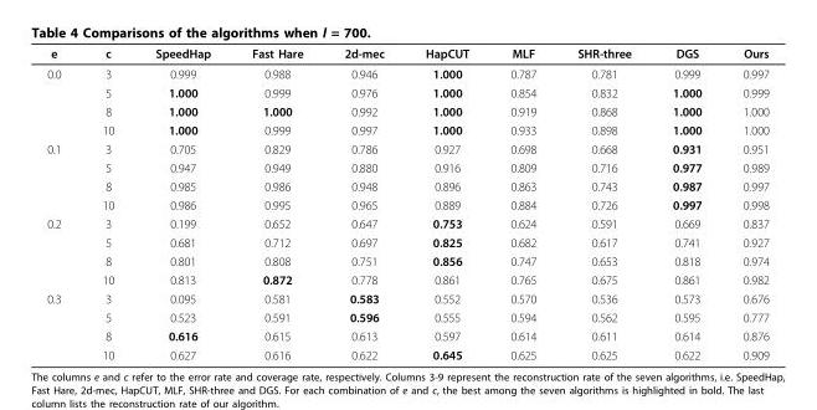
<table><thead><tr><td>e</td><td>c</td><td>SpeedHap</td><td>Fast Hare</td><td>2d-mec</td><td>HapCUT</td><td>MLF</td><td>SHR-three</td><td>DGS</td><td>Ours</td></tr></thead><tbody><tr><td rowspan="4">0.0</td><td>3</td><td>0.999</td><td>0.988</td><td>0.946</td><td>1.000</td><td>0.787</td><td>0.781</td><td>0.999</td><td>0.997</td></tr><tr><td>5</td><td>1.000</td><td>0.999</td><td>0.976</td><td>1.000</td><td>0.854</td><td>0.832</td><td>1.000</td><td>0.999</td></tr><tr><td>8</td><td>1.000</td><td>1.000</td><td>0.992</td><td>1.000</td><td>0.919</td><td>0.868</td><td>1.000</td><td>1.000</td></tr><tr><td>10</td><td>1.000</td><td>0.999</td><td>0.997</td><td>1.000</td><td>0.933</td><td>0.898</td><td>1.000</td><td>1.000</td></tr><tr><td rowspan="4">0.1</td><td>3</td><td>0.705</td><td>0.829</td><td>0.786</td><td>0.927</td><td>0.698</td><td>0.668</td><td>0.931</td><td>0.951</td></tr><tr><td>5</td><td>0.947</td><td>0.949</td><td>0.880</td><td>0.916</td><td>0.809</td><td>0.716</td><td>0.977</td><td>0.989</td></tr><tr><td>8</td><td>0.985</td><td>0.986</td><td>0.948</td><td>0.896</td><td>0.863</td><td>0.743</td><td>0.987</td><td>0.997</td></tr><tr><td>10</td><td>0.986</td><td>0.995</td><td>0.965</td><td>0.889</td><td>0.884</td><td>0.726</td><td>0.997</td><td>0.998</td></tr><tr><td rowspan="4">0.2</td><td>3</td><td>0.199</td><td>0.652</td><td>0.647</td><td>0.753</td><td>0.624</td><td>0.591</td><td>0.669</td><td>0.837</td></tr><tr><td>5</td><td>0.681</td><td>0.712</td><td>0.697</td><td>0.825</td><td>0.682</td><td>0.617</td><td>0.741</td><td>0.927</td></tr><tr><td>8</td><td>0.801</td><td>0.808</td><td>0.751</td><td>0.856</td><td>0.747</td><td>0.653</td><td>0.818</td><td>0.974</td></tr><tr><td>10</td><td>0.813</td><td>0.872</td><td>0.778</td><td>0.861</td><td>0.765</td><td>0.675</td><td>0.861</td><td>0.982</td></tr><tr><td rowspan="4">0.3</td><td>3</td><td>0.095</td><td>0.581</td><td>0.583</td><td>0.552</td><td>0.570</td><td>0.536</td><td>0.573</td><td>0.676</td></tr><tr><td>5</td><td>0.523</td><td>0.591</td><td>0.596</td><td>0.555</td><td>0.594</td><td>0.562</td><td>0.595</td><td>0.777</td></tr><tr><td>8</td><td>0.616</td><td>0.615</td><td>0.613</td><td>0.597</td><td>0.614</td><td>0.611</td><td>0.614</td><td>0.876</td></tr><tr><td>10</td><td>0.627</td><td>0.616</td><td>0.622</td><td>0.645</td><td>0.625</td><td>0.625</td><td>0.622</td><td>0.909</td></tr></tbody></table>